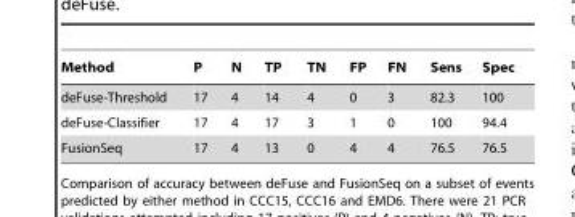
<table><thead><tr><td>Method</td><td>P</td><td>N</td><td>TP</td><td>TN</td><td>FP</td><td>FN</td><td>Sens</td><td>Spec</td></tr></thead><tbody><tr><td>deFuse-Threshold</td><td>17</td><td>4</td><td>14</td><td>4</td><td>0</td><td>3</td><td>82.3</td><td>100</td></tr><tr><td>deFuse-Classifier</td><td>17</td><td>4</td><td>17</td><td>3</td><td>1</td><td>0</td><td>100</td><td>94.4</td></tr><tr><td>FusionSeq</td><td>17</td><td>4</td><td>13</td><td>0</td><td>4</td><td>4</td><td>76.5</td><td>76.5</td></tr></tbody></table>